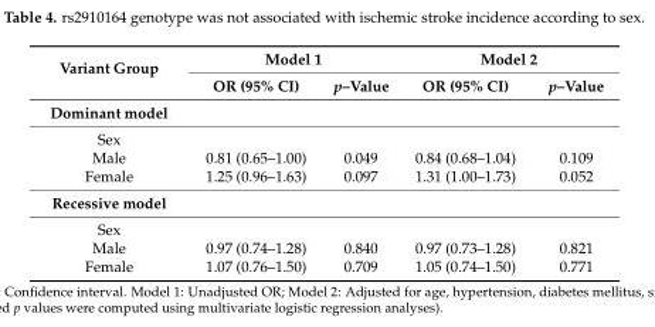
<table><thead><tr><td rowspan="2">Variant Group</td><td colspan="2">Model 1</td><td colspan="2">Model 2</td></tr><tr><td>OR (95% CI)</td><td>p–Value</td><td>OR (95% CI)</td><td>p–Value</td></tr></thead><tbody><tr><td colspan="5">Dominant model</td></tr><tr><td colspan="5">Sex</td></tr><tr><td>Male</td><td>0.81 (0.65–1.00)</td><td>0.049</td><td>0.84 (0.68–1.04)</td><td>0.109</td></tr><tr><td>Female</td><td>1.25 (0.96–1.63)</td><td>0.097</td><td>1.31 (1.00–1.73)</td><td>0.052</td></tr><tr><td colspan="5">Recessive model</td></tr><tr><td colspan="5">Sex</td></tr><tr><td>Male</td><td>0.97 (0.74–1.28)</td><td>0.840</td><td>0.97 (0.73–1.28)</td><td>0.821</td></tr><tr><td>Female</td><td>1.07 (0.76–1.50)</td><td>0.709</td><td>1.05 (0.74–1.50)</td><td>0.771</td></tr></tbody></table>